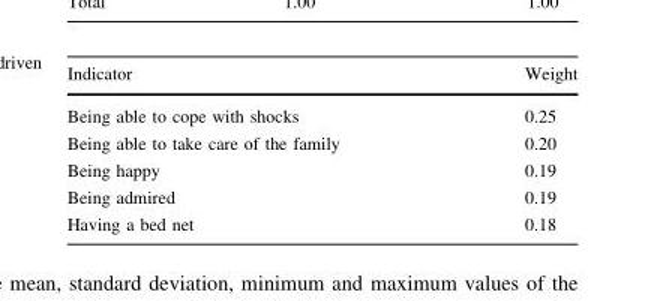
<table><thead><tr><td>Indicator</td><td>Weight</td></tr></thead><tbody><tr><td>Being able to cope with shocks</td><td>0.25</td></tr><tr><td>Being able to take care of the family</td><td>0.20</td></tr><tr><td>Being happy</td><td>0.19</td></tr><tr><td>Being admired</td><td>0.19</td></tr><tr><td>Having a bed net</td><td>0.18</td></tr></tbody></table>